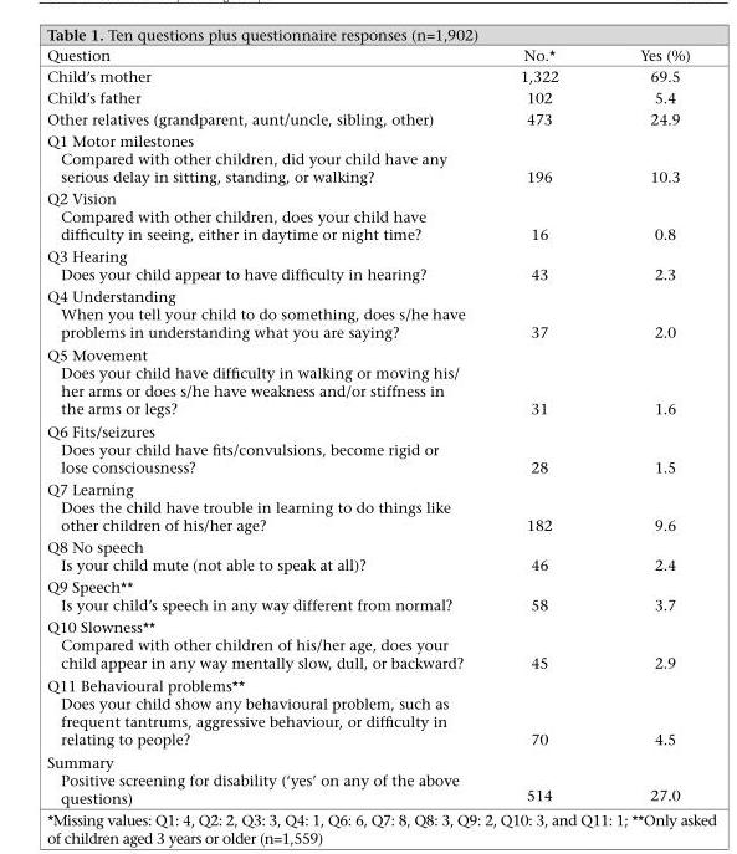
<table><thead><tr><td>Question</td><td>No.*</td><td>Yes (%)</td></tr></thead><tbody><tr><td>Child’s mother</td><td>1,322</td><td>69.5</td></tr><tr><td>Child’s father</td><td>102</td><td>5.4</td></tr><tr><td>Other relatives (grandparent, aunt/uncle, sibling, other)</td><td>473</td><td>24.9</td></tr><tr><td colspan="3">Q1 Motor milestones</td></tr><tr><td>Compared with other children, did your child have any serious delay in sitting, standing, or walking?</td><td>196</td><td>10.3</td></tr><tr><td colspan="3">Q2 Vision</td></tr><tr><td>Compared with other children, does your child have difficulty in seeing, either in daytime or night time?</td><td>16</td><td>0.8</td></tr><tr><td colspan="3">Q3 Hearing</td></tr><tr><td>Does your child appear to have difficulty in hearing?</td><td>43</td><td>2.3</td></tr><tr><td colspan="3">Q4 Understanding</td></tr><tr><td>When you tell your child to do something, does s/he have problems in understanding what you are saying?</td><td>37</td><td>2.0</td></tr><tr><td colspan="3">Q5 Movement</td></tr><tr><td>Does your child have difficulty in walking or moving his/ her arms or does s/he have weakness and/or stiffness in the arms or legs?</td><td>31</td><td>1.6</td></tr><tr><td colspan="3">Q6 Fits/seizures</td></tr><tr><td>Does your child have fits/convulsions, become rigid or lose consciousness?</td><td>28</td><td>1.5</td></tr><tr><td colspan="3">Q7 Learning</td></tr><tr><td>Does the child have trouble in learning to do things like other children of his/her age?</td><td>182</td><td>9.6</td></tr><tr><td colspan="3">Q8 No speech</td></tr><tr><td>Is your child mute (not able to speak at all)?</td><td>46</td><td>2.4</td></tr><tr><td colspan="3">Q9 Speech**</td></tr><tr><td>Is your child’s speech in any way different from normal?</td><td>58</td><td>3.7</td></tr><tr><td colspan="3">Q10 Slowness**</td></tr><tr><td>Compared with other children of his/her age, does your child appear in any way mentally slow, dull, or backward?</td><td>45</td><td>2.9</td></tr><tr><td colspan="3">Q11 Behavioural problems**</td></tr><tr><td>Does your child show any behavioural problem, such as frequent tantrums, aggressive behaviour, or difficulty in relating to people?</td><td>70</td><td>4.5</td></tr><tr><td colspan="3">Summary</td></tr><tr><td>Positive screening for disability (‘yes’ on any of the above questions)</td><td>514</td><td>27.0</td></tr></tbody></table>